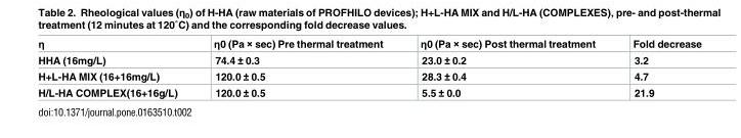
<table><thead><tr><td>η</td><td>η0 (Pa × sec) Pre thermal treatment</td><td>η0 (Pa × sec) Post thermal treatment</td><td>Fold decrease</td></tr></thead><tbody><tr><td>HHA (16mg/L)</td><td>74.4 ± 0.3</td><td>23.0 ± 0.2</td><td>3.2</td></tr><tr><td>H+L-HA MIX (16+16mg/L)</td><td>120.0 ± 0.5</td><td>28.3 ± 0.4</td><td>4.7</td></tr><tr><td>H/L-HA COMPLEX(16+16g/L)</td><td>120.0 ± 0.5</td><td>5.5 ± 0.0</td><td>21.9</td></tr></tbody></table>